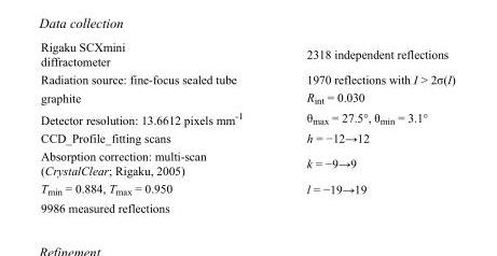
<table><tbody><tr><td>Rigaku SCXmini diffractometer</td><td>2318 independent reflections</td></tr><tr><td>Radiation source: fine-focus sealed tube</td><td>1970 reflections with I &gt; 2σ(I)</td></tr><tr><td>graphite</td><td>R<sub>int</sub> = 0.030</td></tr><tr><td>Detector resolution: 13.6612 pixels mm<sup>-1</sup></td><td>θ<sub>max</sub> = 27.5°, θ<sub>min</sub> = 3.1°</td></tr><tr><td>CCD_Profile_fitting scans</td><td>h = −12→12</td></tr><tr><td>Absorption correction: multi-scan (CrystalClear; Rigaku, 2005)</td><td>k = −9→9</td></tr><tr><td>T<sub>min</sub> = 0.884, T<sub>max</sub> = 0.950</td><td>l = −19→19</td></tr><tr><td>9986 measured reflections</td><td></td></tr></tbody></table>